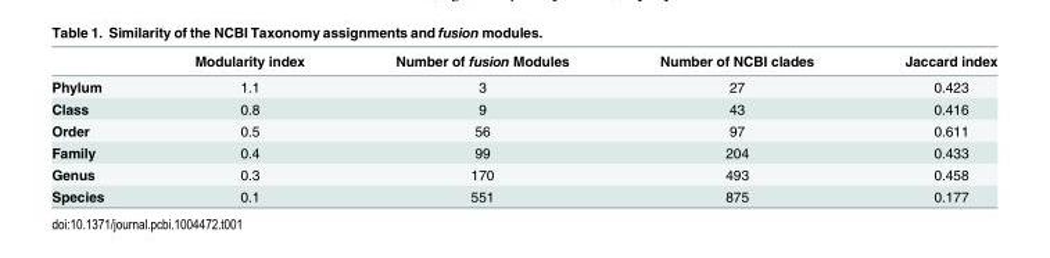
<table><thead><tr><td></td><td>Modularity index</td><td>Number of fusion Modules</td><td>Number of NCBI clades</td><td>Jaccard index</td></tr></thead><tbody><tr><td>Phylum</td><td>1.1</td><td>3</td><td>27</td><td>0.423</td></tr><tr><td>Class</td><td>0.8</td><td>9</td><td>43</td><td>0.416</td></tr><tr><td>Order</td><td>0.5</td><td>56</td><td>97</td><td>0.611</td></tr><tr><td>Family</td><td>0.4</td><td>99</td><td>204</td><td>0.433</td></tr><tr><td>Genus</td><td>0.3</td><td>170</td><td>493</td><td>0.458</td></tr><tr><td>Species</td><td>0.1</td><td>551</td><td>875</td><td>0.177</td></tr></tbody></table>